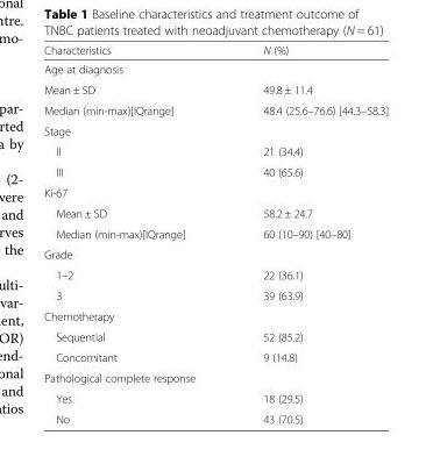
<table><thead><tr><td>Characteristics</td><td>N (%)</td></tr></thead><tbody><tr><td colspan="2">Age at diagnosis</td></tr><tr><td>Mean ± SD</td><td>49.8 ± 11.4</td></tr><tr><td>Median (min-max)[IQrange]</td><td>48.4 (25.6–76.6) [44.3–58.3]</td></tr><tr><td colspan="2">Stage</td></tr><tr><td>II</td><td>21 (34.4)</td></tr><tr><td>III</td><td>40 (65.6)</td></tr><tr><td colspan="2">Ki-67</td></tr><tr><td>Mean ± SD</td><td>58.2 ± 24.7</td></tr><tr><td>Median (min-max)[IQrange]</td><td>60 (10–90) [40–80]</td></tr><tr><td colspan="2">Grade</td></tr><tr><td>1–2</td><td>22 (36.1)</td></tr><tr><td>3</td><td>39 (63.9)</td></tr><tr><td colspan="2">Chemotherapy</td></tr><tr><td>Sequential</td><td>52 (85.2)</td></tr><tr><td>Concomitant</td><td>9 (14.8)</td></tr><tr><td colspan="2">Pathological complete response</td></tr><tr><td>Yes</td><td>18 (29.5)</td></tr><tr><td>No</td><td>43 (70.5)</td></tr></tbody></table>